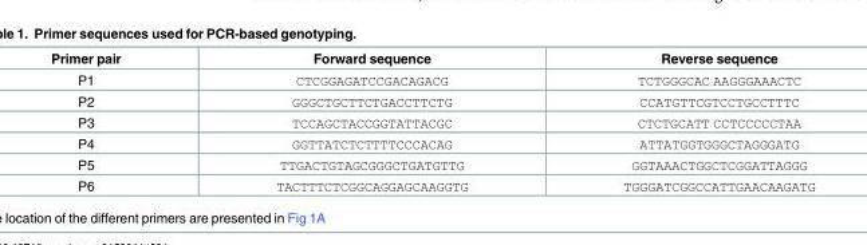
<table><thead><tr><td>Primer pair</td><td>Forward sequence</td><td>Reverse sequence</td></tr></thead><tbody><tr><td>P1</td><td>CTCGGAGATCCGACAGACG</td><td>TCTGGGCAC AAGGGAAACTC</td></tr><tr><td>P2</td><td>GGGCTGCTTCTGACCTTCTG</td><td>CCATGTTCGTCCTGCCTTTC</td></tr><tr><td>P3</td><td>TCCAGCTACCGGTATTACGC</td><td>CTCTGCATT CCTCCCCCTAA</td></tr><tr><td>P4</td><td>GGTTATCTCTTTTCCCACAG</td><td>ATTATGGTGGGCTAGGGATG</td></tr><tr><td>P5</td><td>TTGACTGTAGCGGGCTGATGTTG</td><td>GGTAAACTGGCTCGGATTAGGG</td></tr><tr><td>P6</td><td>TACTTTCTCGGCAGGAGCAAGGTG</td><td>TGGGATCGGCCATTGAACAAGATG</td></tr></tbody></table>